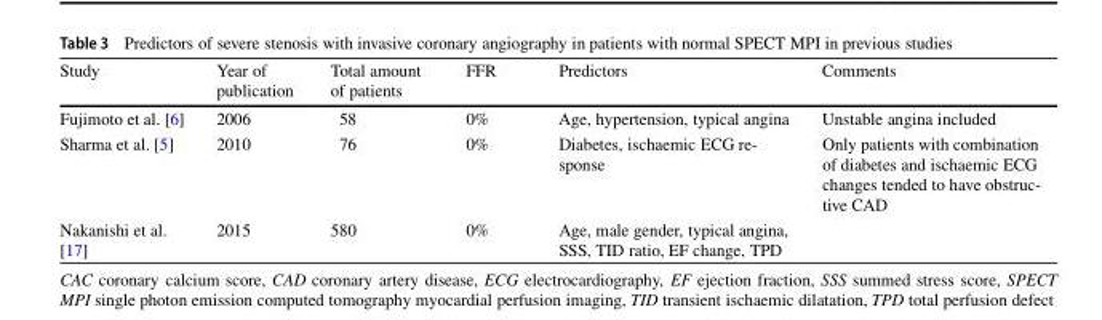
<table><thead><tr><td>Study</td><td>Year of publication</td><td>Total amount of patients</td><td>FFR</td><td>Predictors</td><td>Comments</td></tr></thead><tbody><tr><td>Fujimoto et al. [6]</td><td>2006</td><td>58</td><td>0%</td><td>Age, hypertension, typical angina</td><td>Unstable angina included</td></tr><tr><td>Sharma et al. [5]</td><td>2010</td><td>76</td><td>0%</td><td>Diabetes, ischaemic ECG re- sponse</td><td>Only patients with combination of diabetes and ischaemic ECG changes tended to have obstruc- tive CAD</td></tr><tr><td>Nakanishi et al. [17]</td><td>2015</td><td>580</td><td>0%</td><td>Age, male gender, typical angina, SSS, TID ratio, EF change, TPD</td><td></td></tr></tbody></table>